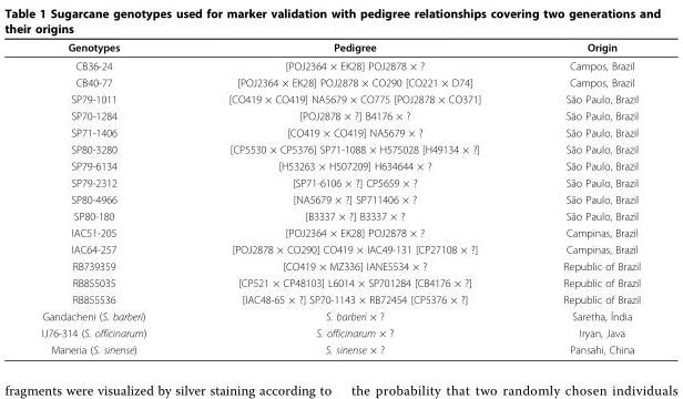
<table><thead><tr><td>Genotypes</td><td>Pedigree</td><td>Origin</td></tr></thead><tbody><tr><td>CB36-24</td><td>[POJ2364 × EK28] POJ2878 × ?</td><td>Campos, Brazil</td></tr><tr><td>CB40-77</td><td>[POJ2364 × EK28] POJ2878 × CO290 [CO221 × D74]</td><td>Campos, Brazil</td></tr><tr><td>SP79-1011</td><td>[CO419 × CO419] NA5679 × CO775 [POJ2878 × CO371]</td><td>São Paulo, Brazil</td></tr><tr><td>SP70-1284</td><td>[POJ2878 × ?] B4176 × ?</td><td>São Paulo, Brazil</td></tr><tr><td>SP71-1406</td><td>[CO419 × CO419] NA5679 × ?</td><td>São Paulo, Brazil</td></tr><tr><td>SP80-3280</td><td>[CP5530 × CP5376] SP71-1088 × H575028 [H49134 × ?]</td><td>São Paulo, Brazil</td></tr><tr><td>SP79-6134</td><td>[H53263 × H507209] H634644 × ?</td><td>São Paulo, Brazil</td></tr><tr><td>SP79-2312</td><td>[SP71-6106 × ?] CP5659 × ?</td><td>São Paulo, Brazil</td></tr><tr><td>SP80-4966</td><td>[NA5679 × ?] SP711406 × ?</td><td>São Paulo, Brazil</td></tr><tr><td>SP80-180</td><td>[B3337 × ?] B3337 × ?</td><td>São Paulo, Brazil</td></tr><tr><td>IAC51-205</td><td>[POJ2364 × EK28] POJ2878 × ?</td><td>Campinas, Brazil</td></tr><tr><td>IAC64-257</td><td>[POJ2878 × CO290] CO419 × IAC49-131 [CP27108 × ?]</td><td>Campinas, Brazil</td></tr><tr><td>RB739359</td><td>[CO419 × MZ336] IANE5534 × ?</td><td>Republic of Brazil</td></tr><tr><td>RB855035</td><td>[CP521 × CP48103] L6014 × SP701284 [CB4176 × ?]</td><td>Republic of Brazil</td></tr><tr><td>RB855536</td><td>[IAC48-65 × ?] SP70-1143 × RB72454 [CP5376 × ?]</td><td>Republic of Brazil</td></tr><tr><td>Gandacheni (S. barberi)</td><td>S. barberi × ?</td><td>Saretha, Índia</td></tr><tr><td>IJ76-314 (S. officinarum)</td><td>S. officinarum × ?</td><td>Iryan, Java</td></tr><tr><td>Maneria (S. sinense)</td><td>S. sinense × ?</td><td>Pansahi, China</td></tr></tbody></table>